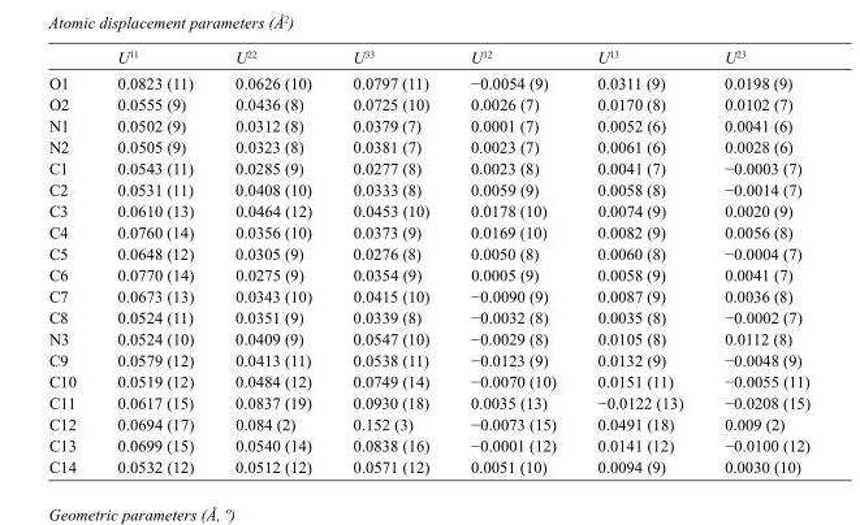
<table><thead><tr><td></td><td>U<sup>11</sup></td><td>U<sup>22</sup></td><td>U<sup>33</sup></td><td>U<sup>12</sup></td><td>U<sup>13</sup></td><td>U<sup>23</sup></td></tr></thead><tbody><tr><td>O1</td><td>0.0823 (11)</td><td>0.0626 (10)</td><td>0.0797 (11)</td><td>−0.0054 (9)</td><td>0.0311 (9)</td><td>0.0198 (9)</td></tr><tr><td>O2</td><td>0.0555 (9)</td><td>0.0436 (8)</td><td>0.0725 (10)</td><td>0.0026 (7)</td><td>0.0170 (8)</td><td>0.0102 (7)</td></tr><tr><td>N1</td><td>0.0502 (9)</td><td>0.0312 (8)</td><td>0.0379 (7)</td><td>0.0001 (7)</td><td>0.0052 (6)</td><td>0.0041 (6)</td></tr><tr><td>N2</td><td>0.0505 (9)</td><td>0.0323 (8)</td><td>0.0381 (7)</td><td>0.0023 (7)</td><td>0.0061 (6)</td><td>0.0028 (6)</td></tr><tr><td>C1</td><td>0.0543 (11)</td><td>0.0285 (9)</td><td>0.0277 (8)</td><td>0.0023 (8)</td><td>0.0041 (7)</td><td>−0.0003 (7)</td></tr><tr><td>C2</td><td>0.0531 (11)</td><td>0.0408 (10)</td><td>0.0333 (8)</td><td>0.0059 (9)</td><td>0.0058 (8)</td><td>−0.0014 (7)</td></tr><tr><td>C3</td><td>0.0610 (13)</td><td>0.0464 (12)</td><td>0.0453 (10)</td><td>0.0178 (10)</td><td>0.0074 (9)</td><td>0.0020 (9)</td></tr><tr><td>C4</td><td>0.0760 (14)</td><td>0.0356 (10)</td><td>0.0373 (9)</td><td>0.0169 (10)</td><td>0.0082 (9)</td><td>0.0056 (8)</td></tr><tr><td>C5</td><td>0.0648 (12)</td><td>0.0305 (9)</td><td>0.0276 (8)</td><td>0.0050 (8)</td><td>0.0060 (8)</td><td>−0.0004 (7)</td></tr><tr><td>C6</td><td>0.0770 (14)</td><td>0.0275 (9)</td><td>0.0354 (9)</td><td>0.0005 (9)</td><td>0.0058 (9)</td><td>0.0041 (7)</td></tr><tr><td>C7</td><td>0.0673 (13)</td><td>0.0343 (10)</td><td>0.0415 (10)</td><td>−0.0090 (9)</td><td>0.0087 (9)</td><td>0.0036 (8)</td></tr><tr><td>C8</td><td>0.0524 (11)</td><td>0.0351 (9)</td><td>0.0339 (8)</td><td>−0.0032 (8)</td><td>0.0035 (8)</td><td>−0.0002 (7)</td></tr><tr><td>N3</td><td>0.0524 (10)</td><td>0.0409 (9)</td><td>0.0547 (10)</td><td>−0.0029 (8)</td><td>0.0105 (8)</td><td>0.0112 (8)</td></tr><tr><td>C9</td><td>0.0579 (12)</td><td>0.0413 (11)</td><td>0.0538 (11)</td><td>−0.0123 (9)</td><td>0.0132 (9)</td><td>−0.0048 (9)</td></tr><tr><td>C10</td><td>0.0519 (12)</td><td>0.0484 (12)</td><td>0.0749 (14)</td><td>−0.0070 (10)</td><td>0.0151 (11)</td><td>−0.0055 (11)</td></tr><tr><td>C11</td><td>0.0617 (15)</td><td>0.0837 (19)</td><td>0.0930 (18)</td><td>0.0035 (13)</td><td>−0.0122 (13)</td><td>−0.0208 (15)</td></tr><tr><td>C12</td><td>0.0694 (17)</td><td>0.084 (2)</td><td>0.152 (3)</td><td>−0.0073 (15)</td><td>0.0491 (18)</td><td>0.009 (2)</td></tr><tr><td>C13</td><td>0.0699 (15)</td><td>0.0540 (14)</td><td>0.0838 (16)</td><td>−0.0001 (12)</td><td>0.0141 (12)</td><td>−0.0100 (12)</td></tr><tr><td>C14</td><td>0.0532 (12)</td><td>0.0512 (12)</td><td>0.0571 (12)</td><td>0.0051 (10)</td><td>0.0094 (9)</td><td>0.0030 (10)</td></tr></tbody></table>